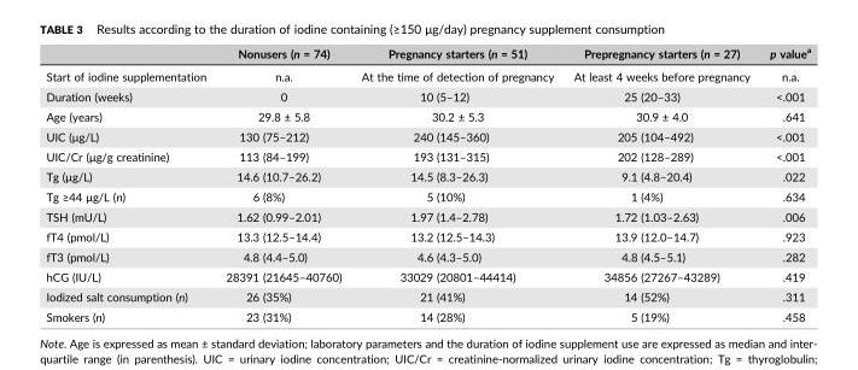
<table><thead><tr><td></td><td>Nonusers (n = 74)</td><td>Pregnancy starters (n = 51)</td><td>Prepregnancy starters (n = 27)</td><td>p value<sup>a</sup></td></tr></thead><tbody><tr><td>Start of iodine supplementation</td><td>n.a.</td><td>At the time of detection of pregnancy</td><td>At least 4 weeks before pregnancy</td><td>n.a.</td></tr><tr><td>Duration (weeks)</td><td>0</td><td>10 (5–12)</td><td>25 (20–33)</td><td>&lt;.001</td></tr><tr><td>Age (years)</td><td>29.8 ± 5.8</td><td>30.2 ± 5.3</td><td>30.9 ± 4.0</td><td>.641</td></tr><tr><td>UIC (μg/L)</td><td>130 (75–212)</td><td>240 (145–360)</td><td>205 (104–492)</td><td>&lt;.001</td></tr><tr><td>UIC/Cr (μg/g creatinine)</td><td>113 (84–199)</td><td>193 (131–315)</td><td>202 (128–289)</td><td>&lt;.001</td></tr><tr><td>Tg (μg/L)</td><td>14.6 (10.7–26.2)</td><td>14.5 (8.3–26.3)</td><td>9.1 (4.8–20.4)</td><td>.022</td></tr><tr><td>Tg ≥44 μg/L (n)</td><td>6 (8%)</td><td>5 (10%)</td><td>1 (4%)</td><td>.634</td></tr><tr><td>TSH (mU/L)</td><td>1.62 (0.99–2.01)</td><td>1.97 (1.4–2.78)</td><td>1.72 (1.03–2.63)</td><td>.006</td></tr><tr><td>fT4 (pmol/L)</td><td>13.3 (12.5–14.4)</td><td>13.2 (12.5–14.3)</td><td>13.9 (12.0–14.7)</td><td>.923</td></tr><tr><td>fT3 (pmol/L)</td><td>4.8 (4.4–5.0)</td><td>4.6 (4.3–5.0)</td><td>4.8 (4.5–5.1)</td><td>.282</td></tr><tr><td>hCG (IU/L)</td><td>28391 (21645–40760)</td><td>33029 (20801–44414)</td><td>34856 (27267–43289)</td><td>.419</td></tr><tr><td>Iodized salt consumption (n)</td><td>26 (35%)</td><td>21 (41%)</td><td>14 (52%)</td><td>.311</td></tr><tr><td>Smokers (n)</td><td>23 (31%)</td><td>14 (28%)</td><td>5 (19%)</td><td>.458</td></tr></tbody></table>